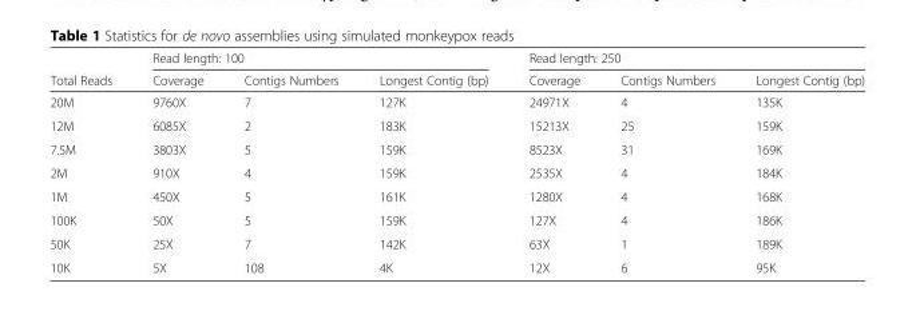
<table><thead><tr><td rowspan="2">Total Reads</td><td colspan="3">Read length: 100</td><td colspan="3">Read length: 250</td></tr><tr><td>Coverage</td><td>Contigs Numbers</td><td>Longest Contig (bp)</td><td>Coverage</td><td>Contigs Numbers</td><td>Longest Contig (bp)</td></tr></thead><tbody><tr><td>20M</td><td>9760X</td><td>7</td><td>127K</td><td>24971X</td><td>4</td><td>135K</td></tr><tr><td>12M</td><td>6085X</td><td>2</td><td>183K</td><td>15213X</td><td>25</td><td>159K</td></tr><tr><td>7.5M</td><td>3803X</td><td>5</td><td>159K</td><td>8523X</td><td>31</td><td>169K</td></tr><tr><td>2M</td><td>910X</td><td>4</td><td>159K</td><td>2535X</td><td>4</td><td>184K</td></tr><tr><td>1M</td><td>450X</td><td>5</td><td>161K</td><td>1280X</td><td>4</td><td>168K</td></tr><tr><td>100K</td><td>50X</td><td>5</td><td>159K</td><td>127X</td><td>4</td><td>186K</td></tr><tr><td>50K</td><td>25X</td><td>7</td><td>142K</td><td>63X</td><td>1</td><td>189K</td></tr><tr><td>10K</td><td>5X</td><td>108</td><td>4K</td><td>12X</td><td>6</td><td>95K</td></tr></tbody></table>